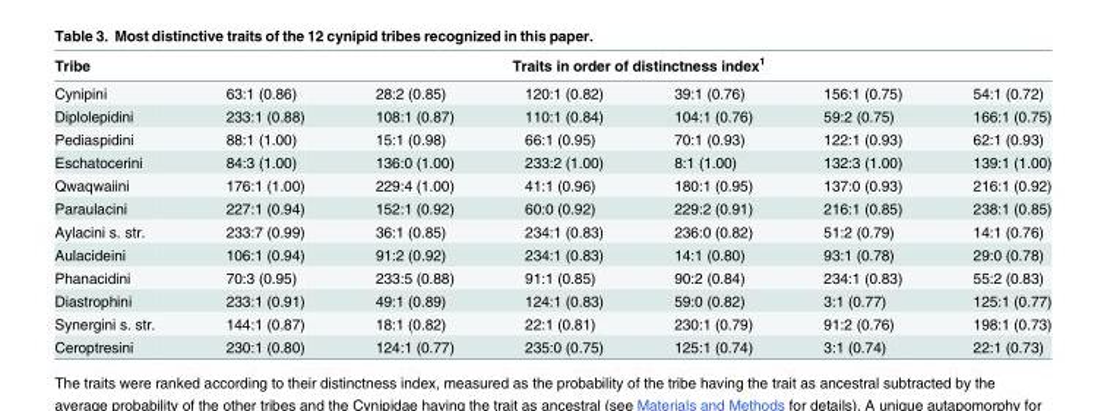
<table><thead><tr><td rowspan="2">Tribe Cynipini</td><td colspan="6">Traits in order of distinctness index<sup>1</sup></td></tr><tr><td>63:1 (0.86)</td><td>28:2 (0.85)</td><td>120:1 (0.82)</td><td>39:1 (0.76)</td><td>156:1 (0.75)</td><td>54:1 (0.72)</td></tr></thead><tbody><tr><td>Diplolepidini</td><td>233:1 (0.88)</td><td>108:1 (0.87)</td><td>110:1 (0.84)</td><td>104:1 (0.76)</td><td>59:2 (0.75)</td><td>166:1 (0.75)</td></tr><tr><td>Pediaspidini</td><td>88:1 (1.00)</td><td>15:1 (0.98)</td><td>66:1 (0.95)</td><td>70:1 (0.93)</td><td>122:1 (0.93)</td><td>62:1 (0.93)</td></tr><tr><td>Eschatocerini</td><td>84:3 (1.00)</td><td>136:0 (1.00)</td><td>233:2 (1.00)</td><td>8:1 (1.00)</td><td>132:3 (1.00)</td><td>139:1 (1.00)</td></tr><tr><td>Qwaqwaiini</td><td>176:1 (1.00)</td><td>229:4 (1.00)</td><td>41:1 (0.96)</td><td>180:1 (0.95)</td><td>137:0 (0.93)</td><td>216:1 (0.92)</td></tr><tr><td>Paraulacini</td><td>227:1 (0.94)</td><td>152:1 (0.92)</td><td>60:0 (0.92)</td><td>229:2 (0.91)</td><td>216:1 (0.85)</td><td>238:1 (0.85)</td></tr><tr><td>Aylacini s. str.</td><td>233:7 (0.99)</td><td>36:1 (0.85)</td><td>234:1 (0.83)</td><td>236:0 (0.82)</td><td>51:2 (0.79)</td><td>14:1 (0.76)</td></tr><tr><td>Aulacideini</td><td>106:1 (0.94)</td><td>91:2 (0.92)</td><td>234:1 (0.83)</td><td>14:1 (0.80)</td><td>93:1 (0.78)</td><td>29:0 (0.78)</td></tr><tr><td>Phanacidini</td><td>70:3 (0.95)</td><td>233:5 (0.88)</td><td>91:1 (0.85)</td><td>90:2 (0.84)</td><td>234:1 (0.83)</td><td>55:2 (0.83)</td></tr><tr><td>Diastrophini</td><td>233:1 (0.91)</td><td>49:1 (0.89)</td><td>124:1 (0.83)</td><td>59:0 (0.82)</td><td>3:1 (0.77)</td><td>125:1 (0.77)</td></tr><tr><td>Synergini s. str.</td><td>144:1 (0.87)</td><td>18:1 (0.82)</td><td>22:1 (0.81)</td><td>230:1 (0.79)</td><td>91:2 (0.76)</td><td>198:1 (0.73)</td></tr><tr><td>Ceroptresini</td><td>230:1 (0.80)</td><td>124:1 (0.77)</td><td>235:0 (0.75)</td><td>125:1 (0.74)</td><td>3:1 (0.74)</td><td>22:1 (0.73)</td></tr></tbody></table>